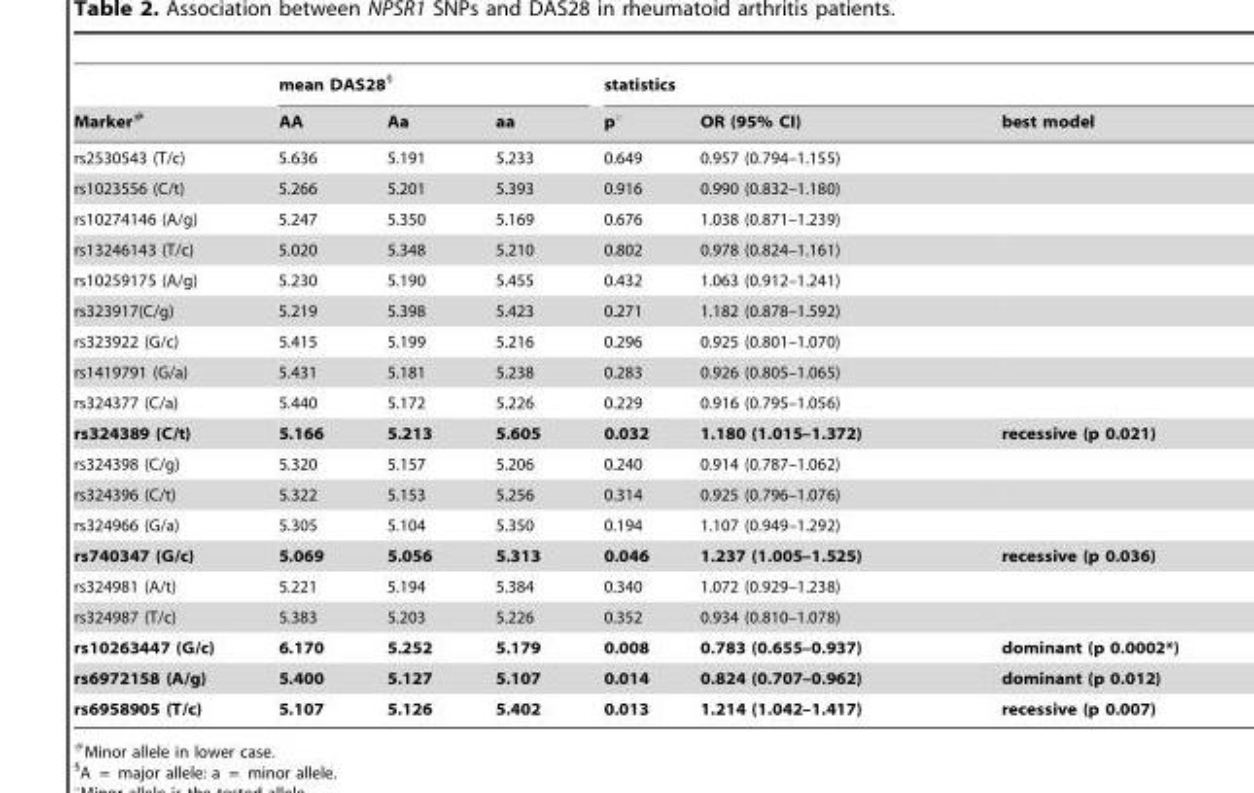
<table><thead><tr><td rowspan="2">Marker#</td><td colspan="3">mean DAS28§</td><td colspan="3">statistics</td></tr><tr><td>AA</td><td>Aa</td><td>aa</td><td>p°</td><td>OR (95% CI)</td><td>best model</td></tr></thead><tbody><tr><td>rs2530543 (T/c)</td><td>5.636</td><td>5.191</td><td>5.233</td><td>0.649</td><td>0.957 (0.794–1.155)</td><td></td></tr><tr><td>rs1023556 (C/t)</td><td>5.266</td><td>5.201</td><td>5.393</td><td>0.916</td><td>0.990 (0.832–1.180)</td><td></td></tr><tr><td>rs10274146 (A/g)</td><td>5.247</td><td>5.350</td><td>5.169</td><td>0.676</td><td>1.038 (0.871–1.239)</td><td></td></tr><tr><td>rs13246143 (T/c)</td><td>5.020</td><td>5.348</td><td>5.210</td><td>0.802</td><td>0.978 (0.824–1.161)</td><td></td></tr><tr><td>rs10259175 (A/g)</td><td>5.230</td><td>5.190</td><td>5.455</td><td>0.432</td><td>1.063 (0.912–1.241)</td><td></td></tr><tr><td>rs323917(C/g)</td><td>5.219</td><td>5.398</td><td>5.423</td><td>0.271</td><td>1.182 (0.878–1.592)</td><td></td></tr><tr><td>rs323922 (G/c)</td><td>5.415</td><td>5.199</td><td>5.216</td><td>0.296</td><td>0.925 (0.801–1.070)</td><td></td></tr><tr><td>rs1419791 (G/a)</td><td>5.431</td><td>5.181</td><td>5.238</td><td>0.283</td><td>0.926 (0.805–1.065)</td><td></td></tr><tr><td>rs324377 (C/a)</td><td>5.440</td><td>5.172</td><td>5.226</td><td>0.229</td><td>0.916 (0.795–1.056)</td><td></td></tr><tr><td>rs324389 (C/t)</td><td>5.166</td><td>5.213</td><td>5.605</td><td>0.032</td><td>1.180 (1.015–1.372)</td><td>recessive (p 0.021)</td></tr><tr><td>rs324398 (C/g)</td><td>5.320</td><td>5.157</td><td>5.206</td><td>0.240</td><td>0.914 (0.787–1.062)</td><td></td></tr><tr><td>rs324396 (C/t)</td><td>5.322</td><td>5.153</td><td>5.256</td><td>0.314</td><td>0.925 (0.796–1.076)</td><td></td></tr><tr><td>rs324966 (G/a)</td><td>5.305</td><td>5.104</td><td>5.350</td><td>0.194</td><td>1.107 (0.949–1.292)</td><td></td></tr><tr><td>rs740347 (G/c)</td><td>5.069</td><td>5.056</td><td>5.313</td><td>0.046</td><td>1.237 (1.005–1.525)</td><td>recessive (p 0.036)</td></tr><tr><td>rs324981 (A/t)</td><td>5.221</td><td>5.194</td><td>5.384</td><td>0.340</td><td>1.072 (0.929–1.238)</td><td></td></tr><tr><td>rs324987 (T/c)</td><td>5.383</td><td>5.203</td><td>5.226</td><td>0.352</td><td>0.934 (0.810–1.078)</td><td></td></tr><tr><td>rs10263447 (G/c)</td><td>6.170</td><td>5.252</td><td>5.179</td><td>0.008</td><td>0.783 (0.655–0.937)</td><td>dominant (p 0.0002*)</td></tr><tr><td>rs6972158 (A/g)</td><td>5.400</td><td>5.127</td><td>5.107</td><td>0.014</td><td>0.824 (0.707–0.962)</td><td>dominant (p 0.012)</td></tr><tr><td>rs6958905 (T/c)</td><td>5.107</td><td>5.126</td><td>5.402</td><td>0.013</td><td>1.214 (1.042–1.417)</td><td>recessive (p 0.007)</td></tr></tbody></table>